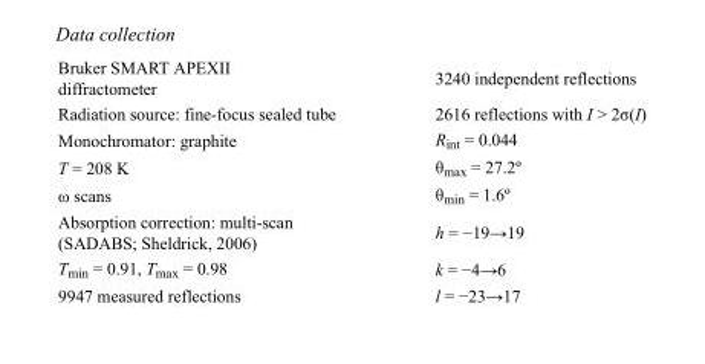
<table><tbody><tr><td>Bruker SMART APEXII diffractometer</td><td>3240 independent reflections</td></tr><tr><td>Radiation source: fine-focus sealed tube</td><td>2616 reflections with I &gt; 2σ(I)</td></tr><tr><td>Monochromator: graphite</td><td>R<sub>int</sub> = 0.044</td></tr><tr><td>T = 208 K</td><td>θ<sub>max</sub> = 27.2º</td></tr><tr><td>ω scans</td><td>θ<sub>min</sub> = 1.6º</td></tr><tr><td>Absorption correction: multi-scan (SADABS; Sheldrick, 2006)</td><td>h = −19→19</td></tr><tr><td>T<sub>min</sub> = 0.91, T<sub>max</sub> = 0.98</td><td>k = −4→6</td></tr><tr><td>9947 measured reflections</td><td>l = −23→17</td></tr></tbody></table>